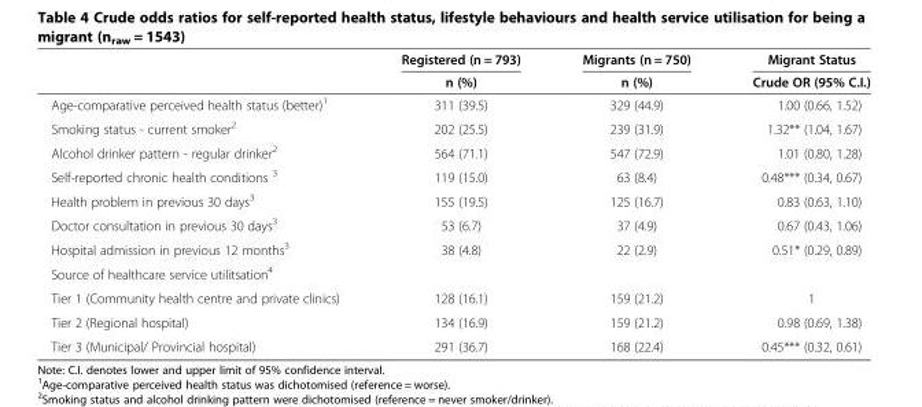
<table><thead><tr><td rowspan="2"></td><td rowspan="2">Registered (n = 793) n (%)</td><td rowspan="2">Migrants (n = 750) n (%)</td><td rowspan="2">Migrant Status Crude OR (95% C.I.)</td></tr><tr></tr></thead><tbody><tr><td>Age-comparative perceived health status (better)<sup>1</sup></td><td>311 (39.5)</td><td>329 (44.9)</td><td>1.00 (0.66, 1.52)</td></tr><tr><td>Smoking status - current smoker<sup>2</sup></td><td>202 (25.5)</td><td>239 (31.9)</td><td>1.32** (1.04, 1.67)</td></tr><tr><td>Alcohol drinker pattern - regular drinker<sup>2</sup></td><td>564 (71.1)</td><td>547 (72.9)</td><td>1.01 (0.80, 1.28)</td></tr><tr><td>Self-reported chronic health conditions <sup>3</sup></td><td>119 (15.0)</td><td>63 (8.4)</td><td>0.48*** (0.34, 0.67)</td></tr><tr><td>Health problem in previous 30 days<sup>3</sup></td><td>155 (19.5)</td><td>125 (16.7)</td><td>0.83 (0.63, 1.10)</td></tr><tr><td>Doctor consultation in previous 30 days<sup>3</sup></td><td>53 (6.7)</td><td>37 (4.9)</td><td>0.67 (0.43, 1.06)</td></tr><tr><td>Hospital admission in previous 12 months<sup>3</sup></td><td>38 (4.8)</td><td>22 (2.9)</td><td>0.51* (0.29, 0.89)</td></tr><tr><td colspan="4">Source of healthcare service utilitsation<sup>4</sup></td></tr><tr><td>Tier 1 (Community health centre and private clinics)</td><td>128 (16.1)</td><td>159 (21.2)</td><td>1</td></tr><tr><td>Tier 2 (Regional hospital)</td><td>134 (16.9)</td><td>159 (21.2)</td><td>0.98 (0.69, 1.38)</td></tr><tr><td>Tier 3 (Municipal/ Provincial hospital)</td><td>291 (36.7)</td><td>168 (22.4)</td><td>0.45*** (0.32, 0.61)</td></tr></tbody></table>